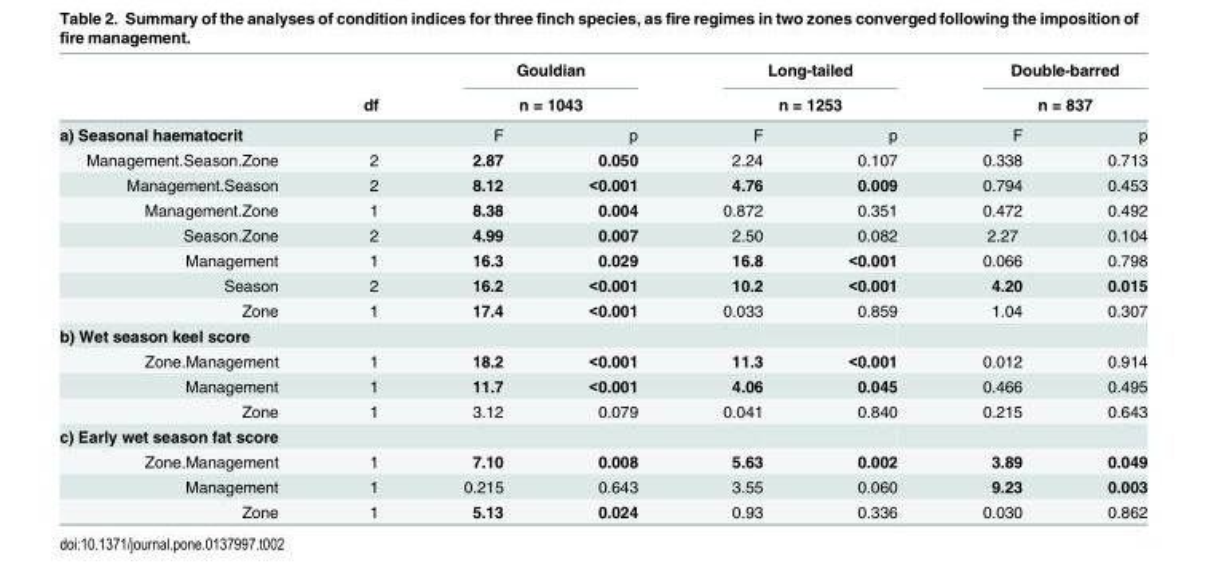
<table><thead><tr><td rowspan="3">a) Seasonal haematocrit</td><td rowspan="3">df</td><td rowspan="2" colspan="2">Gouldian n = 1043</td><td rowspan="2" colspan="2">Long-tailed n = 1253</td><td rowspan="2" colspan="2">Double-barred n = 837</td></tr><tr></tr><tr><td>F</td><td>p</td><td>F</td><td>p</td><td>F</td><td>p</td></tr></thead><tbody><tr><td>Management.Season.Zone</td><td>2</td><td>2.87</td><td>0.050</td><td>2.24</td><td>0.107</td><td>0.338</td><td>0.713</td></tr><tr><td>Management.Season</td><td>2</td><td>8.12</td><td>&lt;0.001</td><td>4.76</td><td>0.009</td><td>0.794</td><td>0.453</td></tr><tr><td>Management.Zone</td><td>1</td><td>8.38</td><td>0.004</td><td>0.872</td><td>0.351</td><td>0.472</td><td>0.492</td></tr><tr><td>Season.Zone</td><td>2</td><td>4.99</td><td>0.007</td><td>2.50</td><td>0.082</td><td>2.27</td><td>0.104</td></tr><tr><td>Management</td><td>1</td><td>16.3</td><td>0.029</td><td>16.8</td><td>&lt;0.001</td><td>0.066</td><td>0.798</td></tr><tr><td>Season</td><td>2</td><td>16.2</td><td>&lt;0.001</td><td>10.2</td><td>&lt;0.001</td><td>4.20</td><td>0.015</td></tr><tr><td>Zone</td><td>1</td><td>17.4</td><td>&lt;0.001</td><td>0.033</td><td>0.859</td><td>1.04</td><td>0.307</td></tr><tr><td colspan="8">b) Wet season keel score</td></tr><tr><td>Zone.Management</td><td>1</td><td>18.2</td><td>&lt;0.001</td><td>11.3</td><td>&lt;0.001</td><td>0.012</td><td>0.914</td></tr><tr><td>Management</td><td>1</td><td>11.7</td><td>&lt;0.001</td><td>4.06</td><td>0.045</td><td>0.466</td><td>0.495</td></tr><tr><td>Zone</td><td>1</td><td>3.12</td><td>0.079</td><td>0.041</td><td>0.840</td><td>0.215</td><td>0.643</td></tr><tr><td colspan="8">c) Early wet season fat score</td></tr><tr><td>Zone.Management</td><td>1</td><td>7.10</td><td>0.008</td><td>5.63</td><td>0.002</td><td>3.89</td><td>0.049</td></tr><tr><td>Management</td><td>1</td><td>0.215</td><td>0.643</td><td>3.55</td><td>0.060</td><td>9.23</td><td>0.003</td></tr><tr><td>Zone</td><td>1</td><td>5.13</td><td>0.024</td><td>0.93</td><td>0.336</td><td>0.030</td><td>0.862</td></tr></tbody></table>